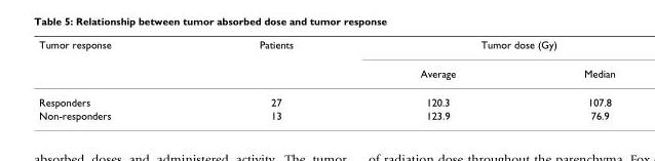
<table><thead><tr><td rowspan="2">Tumor response</td><td rowspan="2">Patients</td><td colspan="2">Tumor dose (Gy)</td></tr><tr><td>Average</td><td>Median</td></tr></thead><tbody><tr><td>Responders</td><td>27</td><td>120.3</td><td>107.8</td></tr><tr><td>Non-responders</td><td>13</td><td>123.9</td><td>76.9</td></tr></tbody></table>